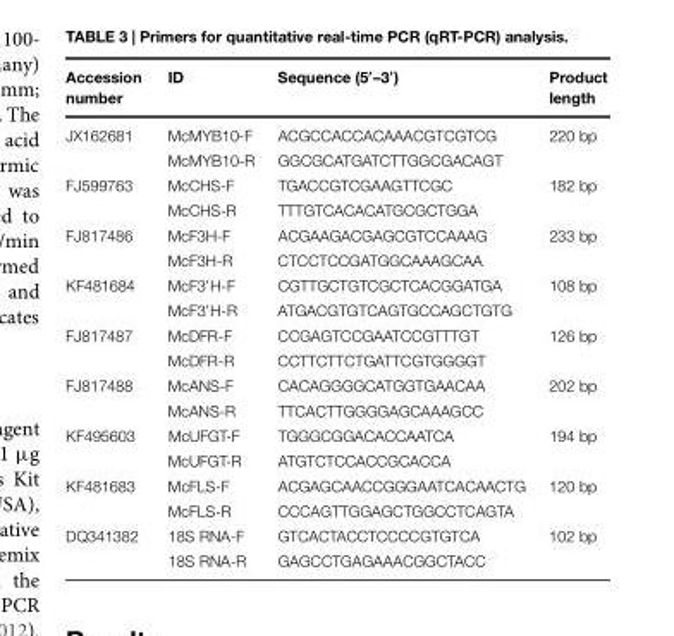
<table><thead><tr><td>Accession number</td><td>ID</td><td>Sequence (5′–3′)</td><td>Product length</td></tr></thead><tbody><tr><td rowspan="2">JX162681</td><td>McMYB10-F</td><td>ACGCCACCACAAACGTCGTCG</td><td>220 bp</td></tr><tr><td>McMYB10-R</td><td>GGCGCATGATCTTGGCGACAGT</td><td></td></tr><tr><td rowspan="2">FJ599763</td><td>McCHS-F</td><td>TGACCGTCGAAGTTCGC</td><td>182 bp</td></tr><tr><td>McCHS-R</td><td>TTTGTCACACATGCGCTGGA</td><td></td></tr><tr><td rowspan="2">FJ817486</td><td>McF3H-F</td><td>ACGAAGACGAGCGTCCAAAG</td><td>233 bp</td></tr><tr><td>McF3H-R</td><td>CTCCTCCGATGGCAAAGCAA</td><td></td></tr><tr><td rowspan="2">KF481684</td><td>McF3′H-F</td><td>CGTTGCTGTCGCTCACGGATGA</td><td>108 bp</td></tr><tr><td>McF3′H-R</td><td>ATGACGTGTCAGTGCCAGCTGTG</td><td></td></tr><tr><td rowspan="2">FJ817487</td><td>McDFR-F</td><td>CCGAGTCCGAATCCGTTTGT</td><td>126 bp</td></tr><tr><td>McDFR-R</td><td>CCTTCTTCTGATTCGTGGGGT</td><td></td></tr><tr><td rowspan="2">FJ817488</td><td>McANS-F</td><td>CACAGGGGCATGGTGAACAA</td><td>202 bp</td></tr><tr><td>McANS-R</td><td>TTCACTTGGGGAGCAAAGCC</td><td></td></tr><tr><td rowspan="2">KF495603</td><td>McUFGT-F</td><td>TGGGCGGACACCAATCA</td><td>194 bp</td></tr><tr><td>McUFGT-R</td><td>ATGTCTCCACCGCACCA</td><td></td></tr><tr><td rowspan="2">KF481683</td><td>McFLS-F</td><td>ACGAGCAACCGGGAATCACAACTG</td><td>120 bp</td></tr><tr><td>McFLS-R</td><td>CCCAGTTGGAGCTGGCCTCAGTA</td><td></td></tr><tr><td rowspan="2">DQ341382</td><td>18S RNA-F</td><td>GTCACTACCTCCCCGTGTCA</td><td>102 bp</td></tr><tr><td>18S RNA-R</td><td>GAGCCTGAGAAACGGCTACC</td><td></td></tr></tbody></table>